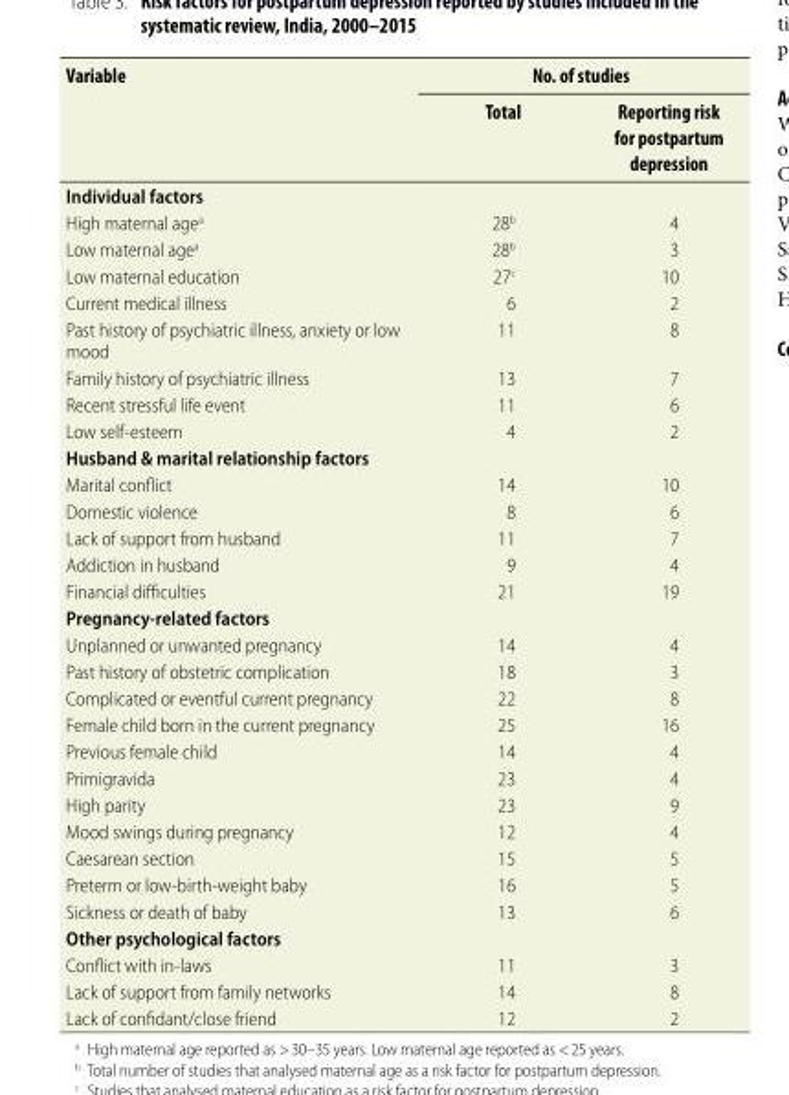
<table><thead><tr><td rowspan="2">Variable</td><td colspan="2">No. of studies</td></tr><tr><td>Total</td><td>Reporting risk for postpartum depression</td></tr></thead><tbody><tr><td colspan="3">Individual factors</td></tr><tr><td>High maternal age<sup>a</sup></td><td>28<sup>b</sup></td><td>4</td></tr><tr><td>Low maternal age<sup>a</sup></td><td>28<sup>b</sup></td><td>3</td></tr><tr><td>Low maternal education</td><td>27<sup>c</sup></td><td>10</td></tr><tr><td>Current medical illness</td><td>6</td><td>2</td></tr><tr><td>Past history of psychiatric illness, anxiety or low mood</td><td>11</td><td>8</td></tr><tr><td>Family history of psychiatric illness</td><td>13</td><td>7</td></tr><tr><td>Recent stressful life event</td><td>11</td><td>6</td></tr><tr><td>Low self-esteem</td><td>4</td><td>2</td></tr><tr><td colspan="3">Husband &amp; marital relationship factors</td></tr><tr><td>Marital conflict</td><td>14</td><td>10</td></tr><tr><td>Domestic violence</td><td>8</td><td>6</td></tr><tr><td>Lack of support from husband</td><td>11</td><td>7</td></tr><tr><td>Addiction in husband</td><td>9</td><td>4</td></tr><tr><td>Financial difficulties</td><td>21</td><td>19</td></tr><tr><td colspan="3">Pregnancy-related factors</td></tr><tr><td>Unplanned or unwanted pregnancy</td><td>14</td><td>4</td></tr><tr><td>Past history of obstetric complication</td><td>18</td><td>3</td></tr><tr><td>Complicated or eventful current pregnancy</td><td>22</td><td>8</td></tr><tr><td>Female child born in the current pregnancy</td><td>25</td><td>16</td></tr><tr><td>Previous female child</td><td>14</td><td>4</td></tr><tr><td>Primigravida</td><td>23</td><td>4</td></tr><tr><td>High parity</td><td>23</td><td>9</td></tr><tr><td>Mood swings during pregnancy</td><td>12</td><td>4</td></tr><tr><td>Caesarean section</td><td>15</td><td>5</td></tr><tr><td>Preterm or low-birth-weight baby</td><td>16</td><td>5</td></tr><tr><td>Sickness or death of baby</td><td>13</td><td>6</td></tr><tr><td colspan="3">Other psychological factors</td></tr><tr><td>Conflict with in-laws</td><td>11</td><td>3</td></tr><tr><td>Lack of support from family networks</td><td>14</td><td>8</td></tr><tr><td>Lack of confidant/close friend</td><td>12</td><td>2</td></tr></tbody></table>